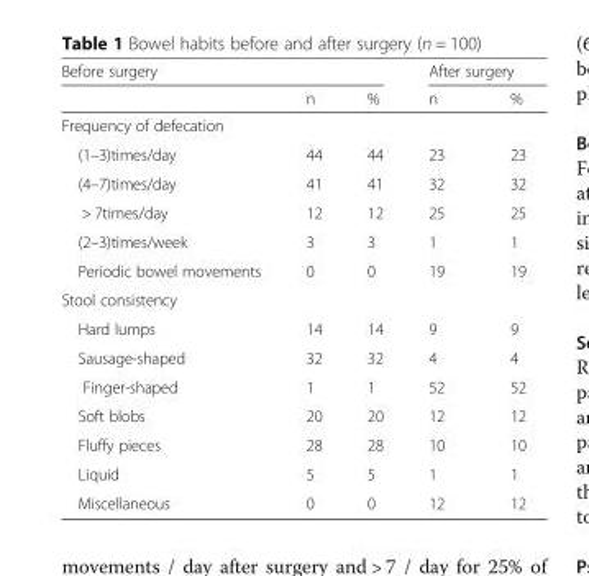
<table><thead><tr><td colspan="3">Before surgery</td><td colspan="2">After surgery</td></tr><tr><td></td><td>n</td><td>%</td><td>n</td><td>%</td></tr></thead><tbody><tr><td colspan="5">Frequency of defecation</td></tr><tr><td>(1–3)times/day</td><td>44</td><td>44</td><td>23</td><td>23</td></tr><tr><td>(4–7)times/day</td><td>41</td><td>41</td><td>32</td><td>32</td></tr><tr><td>&gt; 7times/day</td><td>12</td><td>12</td><td>25</td><td>25</td></tr><tr><td>(2–3)times/week</td><td>3</td><td>3</td><td>1</td><td>1</td></tr><tr><td>Periodic bowel movements</td><td>0</td><td>0</td><td>19</td><td>19</td></tr><tr><td colspan="5">Stool consistency</td></tr><tr><td>Hard lumps</td><td>14</td><td>14</td><td>9</td><td>9</td></tr><tr><td>Sausage-shaped</td><td>32</td><td>32</td><td>4</td><td>4</td></tr><tr><td>Finger-shaped</td><td>1</td><td>1</td><td>52</td><td>52</td></tr><tr><td>Soft blobs</td><td>20</td><td>20</td><td>12</td><td>12</td></tr><tr><td>Fluffy pieces</td><td>28</td><td>28</td><td>10</td><td>10</td></tr><tr><td>Liquid</td><td>5</td><td>5</td><td>1</td><td>1</td></tr><tr><td>Miscellaneous</td><td>0</td><td>0</td><td>12</td><td>12</td></tr></tbody></table>